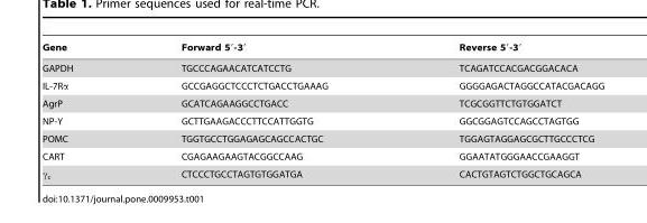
<table><thead><tr><td>Gene</td><td>Forward 5′-3′</td><td>Reverse 5′-3′</td></tr></thead><tbody><tr><td>GAPDH</td><td>TGCCCAGAACATCATCCTG</td><td>TCAGATCCACGACGGACACA</td></tr><tr><td>IL-7Rα</td><td>GCCGAGGCTCCCTCTGACCTGAAAG</td><td>GGGGAGACTAGGCCATACGACAGG</td></tr><tr><td>AgrP</td><td>GCATCAGAAGGCCTGACC</td><td>TCGCGGTTCTGTGGATCT</td></tr><tr><td>NP-Y</td><td>GCTTGAAGACCCTTCCATTGGTG</td><td>GGCGGAGTCCAGCCTAGTGG</td></tr><tr><td>POMC</td><td>TGGTGCCTGGAGAGCAGCCACTGC</td><td>TGGAGTAGGAGCGCTTGCCCTCG</td></tr><tr><td>CART</td><td>CGAGAAGAAGTACGGCCAAG</td><td>GGAATATGGGAACCGAAGGT</td></tr><tr><td>γ<sub>c</sub></td><td>CTCCCTGCCTAGTGTGGATGA</td><td>CACTGTAGTCTGGCTGCAGCA</td></tr></tbody></table>